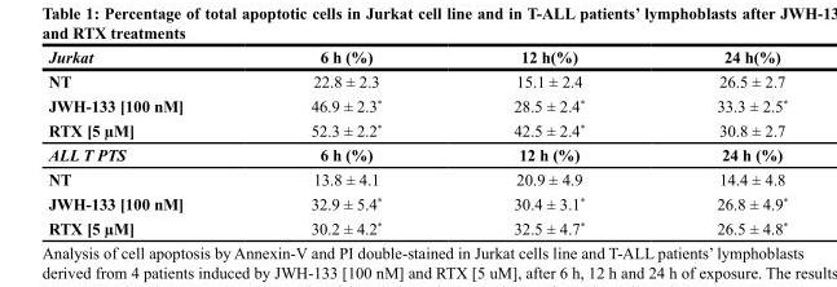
<table><thead><tr><td>Jurkat</td><td>6 h (%)</td><td>12 h(%)</td><td>24 h(%)</td></tr></thead><tbody><tr><td>NT</td><td>22.8 ± 2.3</td><td>15.1 ± 2.4</td><td>26.5 ± 2.7</td></tr><tr><td>JWH-133 [100 nM]</td><td>46.9 ± 2.3*</td><td>28.5 ± 2.4*</td><td>33.3 ± 2.5*</td></tr><tr><td>RTX [5 µM]</td><td>52.3 ± 2.2*</td><td>42.5 ± 2.4*</td><td>30.8 ± 2.7</td></tr><tr><td>ALL T PTS</td><td>6 h (%)</td><td>12 h (%)</td><td>24 h (%)</td></tr><tr><td>NT</td><td>13.8 ± 4.1</td><td>20.9 ± 4.9</td><td>14.4 ± 4.8</td></tr><tr><td>JWH-133 [100 nM]</td><td>32.9 ± 5.4*</td><td>30.4 ± 3.1*</td><td>26.8 ± 4.9*</td></tr><tr><td>RTX [5 µM]</td><td>30.2 ± 4.2*</td><td>32.5 ± 4.7*</td><td>26.5 ± 4.8*</td></tr></tbody></table>